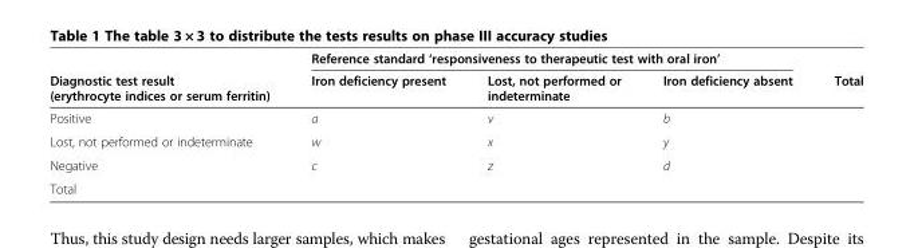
<table><thead><tr><td rowspan="2">Diagnostic test result (erythrocyte indices or serum ferritin)</td><td colspan="3">Reference standard ‘responsiveness to therapeutic test with oral iron’</td><td rowspan="2">Total</td></tr><tr><td>Iron deficiency present</td><td>Lost, not performed or indeterminate</td><td>Iron deficiency absent</td></tr></thead><tbody><tr><td>Positive</td><td>a</td><td>v</td><td>b</td><td></td></tr><tr><td>Lost, not performed or indeterminate</td><td>w</td><td>x</td><td>y</td><td></td></tr><tr><td>Negative</td><td>c</td><td>z</td><td>d</td><td></td></tr><tr><td>Total</td><td></td><td></td><td></td><td></td></tr></tbody></table>